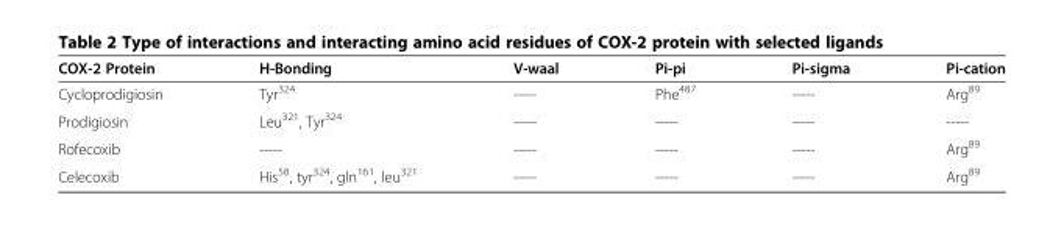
<table><thead><tr><td>COX-2 Protein</td><td>H-Bonding</td><td>V-waal</td><td>Pi-pi</td><td>Pi-sigma</td><td>Pi-cation</td></tr></thead><tbody><tr><td>Cycloprodigiosin</td><td>Tyr<sup>324</sup></td><td>-----</td><td>Phe<sup>487</sup></td><td>-----</td><td>Arg<sup>89</sup></td></tr><tr><td>Prodigiosin</td><td>Leu<sup>321</sup>, Tyr<sup>324</sup></td><td>-----</td><td>-----</td><td>-----</td><td>-----</td></tr><tr><td>Rofecoxib</td><td>-----</td><td>-----</td><td>-----</td><td>-----</td><td>Arg<sup>89</sup></td></tr><tr><td>Celecoxib</td><td>His<sup>58</sup>, tyr<sup>324</sup>, gln<sup>161</sup>, leu<sup>321</sup></td><td>-----</td><td>-----</td><td>-----</td><td>Arg<sup>89</sup></td></tr></tbody></table>